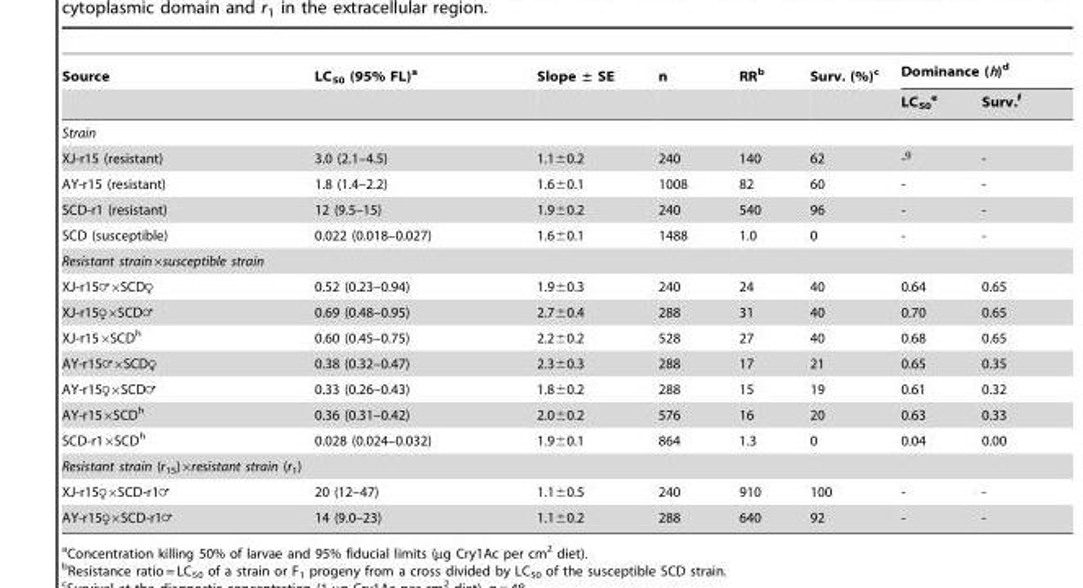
<table><thead><tr><td rowspan="2">Source</td><td rowspan="2">LC<sub>50</sub> (95% FL)<sup>a</sup></td><td rowspan="2">Slope ± SE</td><td rowspan="2">n</td><td rowspan="2">RR<sup>b</sup></td><td rowspan="2">Surv. (%)<sup>c</sup></td><td colspan="2">Dominance (h)<sup>d</sup></td></tr><tr><td>LC<sub>50</sub> e</td><td>Surv.<sup>f</sup></td></tr></thead><tbody><tr><td colspan="8">Strain</td></tr><tr><td>XJ-r15 (resistant)</td><td>3.0 (2.1–4.5)</td><td>1.1±0.2</td><td>240</td><td>140</td><td>62</td><td>-g</td><td>-</td></tr><tr><td>AY-r15 (resistant)</td><td>1.8 (1.4–2.2)</td><td>1.6±0.1</td><td>1008</td><td>82</td><td>60</td><td>-</td><td>-</td></tr><tr><td>SCD-r1 (resistant)</td><td>12 (9.5–15)</td><td>1.9±0.2</td><td>240</td><td>540</td><td>96</td><td>-</td><td>-</td></tr><tr><td>SCD (susceptible)</td><td>0.022 (0.018–0.027)</td><td>1.6±0.1</td><td>1488</td><td>1.0</td><td>0</td><td>-</td><td>-</td></tr><tr><td colspan="8">Resistant strain×susceptible strain</td></tr><tr><td>XJ-r15=6SCDR</td><td>0.52 (0.23–0.94)</td><td>1.9±0.3</td><td>240</td><td>24</td><td>40</td><td>0.64</td><td>0.65</td></tr><tr><td>XJ-r15R6SCD=</td><td>0.69 (0.48–0.95)</td><td>2.7±0.4</td><td>288</td><td>31</td><td>40</td><td>0.70</td><td>0.65</td></tr><tr><td>XJ-r15×SCD<sup>h</sup></td><td>0.60 (0.45–0.75)</td><td>2.2±0.2</td><td>528</td><td>27</td><td>40</td><td>0.68</td><td>0.65</td></tr><tr><td>AY-r15=6SCDR</td><td>0.38 (0.32–0.47)</td><td>2.3±0.3</td><td>288</td><td>17</td><td>21</td><td>0.65</td><td>0.35</td></tr><tr><td>AY-r15R6SCD=</td><td>0.33 (0.26–0.43)</td><td>1.8±0.2</td><td>288</td><td>15</td><td>19</td><td>0.61</td><td>0.32</td></tr><tr><td>AY-r15×SCD<sup>h</sup></td><td>0.36 (0.31–0.42)</td><td>2.0±0.2</td><td>576</td><td>16</td><td>20</td><td>0.63</td><td>0.33</td></tr><tr><td>SCD-r1×SCD<sup>h</sup></td><td>0.028 (0.024–0.032)</td><td>1.9±0.1</td><td>864</td><td>1.3</td><td>0</td><td>0.04</td><td>0.00</td></tr><tr><td colspan="8">Resistant strain (r<sub>15</sub>)×resistant strain (r<sub>1</sub>)</td></tr><tr><td>XJ-r15R6SCD-r1=</td><td>20 (12–47)</td><td>1.1±0.5</td><td>240</td><td>910</td><td>100</td><td>-</td><td>-</td></tr><tr><td>AY-r15R6SCD-r1=</td><td>14 (9.0–23)</td><td>1.1±0.2</td><td>288</td><td>640</td><td>92</td><td>-</td><td>-</td></tr></tbody></table>